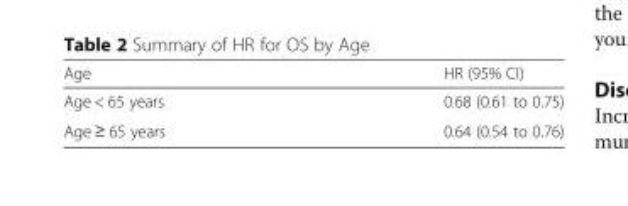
<table><thead><tr><td>Age</td><td>HR (95% CI)</td></tr></thead><tbody><tr><td>Age &lt; 65 years</td><td>0.68 (0.61 to 0.75)</td></tr><tr><td>Age ≥ 65 years</td><td>0.64 (0.54 to 0.76)</td></tr></tbody></table>